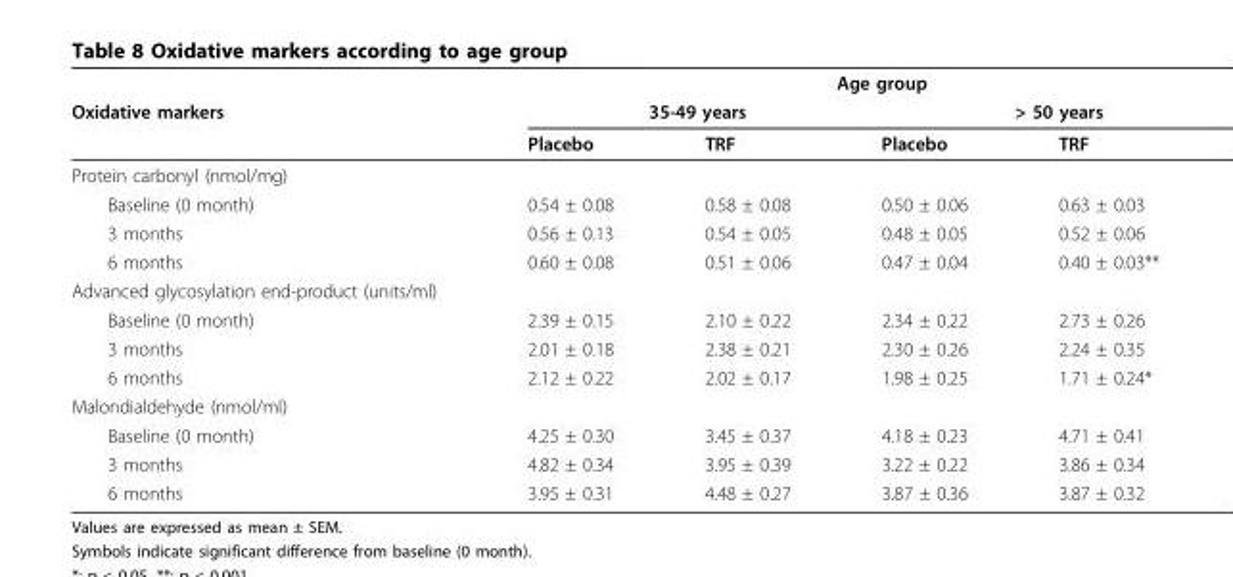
<table><thead><tr><td rowspan="3">Oxidative markers</td><td colspan="4">Age group</td></tr><tr><td colspan="2">35-49 years</td><td colspan="2">&gt; 50 years</td></tr><tr><td>Placebo</td><td>TRF</td><td>Placebo</td><td>TRF</td></tr></thead><tbody><tr><td colspan="5">Protein carbonyl (nmol/mg)</td></tr><tr><td>Baseline (0 month)</td><td>0.54 ± 0.08</td><td>0.58 ± 0.08</td><td>0.50 ± 0.06</td><td>0.63 ± 0.03</td></tr><tr><td>3 months</td><td>0.56 ± 0.13</td><td>0.54 ± 0.05</td><td>0.48 ± 0.05</td><td>0.52 ± 0.06</td></tr><tr><td>6 months</td><td>0.60 ± 0.08</td><td>0.51 ± 0.06</td><td>0.47 ± 0.04</td><td>0.40 ± 0.03**</td></tr><tr><td colspan="5">Advanced glycosylation end-product (units/ml)</td></tr><tr><td>Baseline (0 month)</td><td>2.39 ± 0.15</td><td>2.10 ± 0.22</td><td>2.34 ± 0.22</td><td>2.73 ± 0.26</td></tr><tr><td>3 months</td><td>2.01 ± 0.18</td><td>2.38 ± 0.21</td><td>2.30 ± 0.26</td><td>2.24 ± 0.35</td></tr><tr><td>6 months</td><td>2.12 ± 0.22</td><td>2.02 ± 0.17</td><td>1.98 ± 0.25</td><td>1.71 ± 0.24*</td></tr><tr><td colspan="5">Malondialdehyde (nmol/ml)</td></tr><tr><td>Baseline (0 month)</td><td>4.25 ± 0.30</td><td>3.45 ± 0.37</td><td>4.18 ± 0.23</td><td>4.71 ± 0.41</td></tr><tr><td>3 months</td><td>4.82 ± 0.34</td><td>3.95 ± 0.39</td><td>3.22 ± 0.22</td><td>3.86 ± 0.34</td></tr><tr><td>6 months</td><td>3.95 ± 0.31</td><td>4.48 ± 0.27</td><td>3.87 ± 0.36</td><td>3.87 ± 0.32</td></tr></tbody></table>